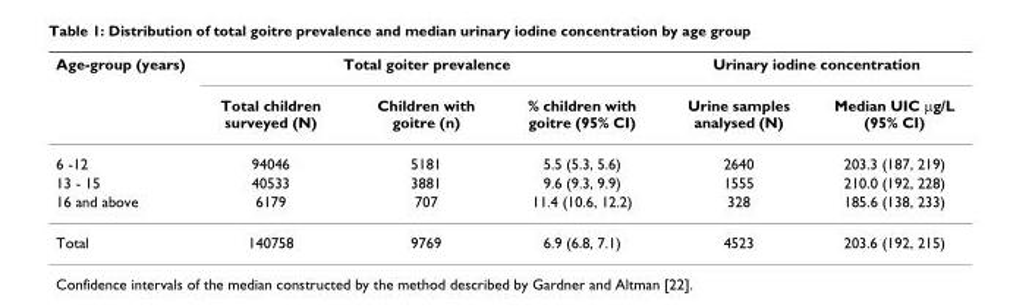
<table><thead><tr><td rowspan="2">Age-group (years)</td><td colspan="3">Total goiter prevalence</td><td colspan="2">Urinary iodine concentration</td></tr><tr><td>Total children surveyed (N)</td><td>Children with goitre (n)</td><td>% children with goitre (95% CI)</td><td>Urine samples analysed (N)</td><td>Median UIC μg/L (95% CI)</td></tr></thead><tbody><tr><td>6 -12</td><td>94046</td><td>5181</td><td>5.5 (5.3, 5.6)</td><td>2640</td><td>203.3 (187, 219)</td></tr><tr><td>13 - 15</td><td>40533</td><td>3881</td><td>9.6 (9.3, 9.9)</td><td>1555</td><td>210.0 (192, 228)</td></tr><tr><td>16 and above</td><td>6179</td><td>707</td><td>11.4 (10.6, 12.2)</td><td>328</td><td>185.6 (138, 233)</td></tr><tr><td>Total</td><td>140758</td><td>9769</td><td>6.9 (6.8, 7.1)</td><td>4523</td><td>203.6 (192, 215)</td></tr></tbody></table>